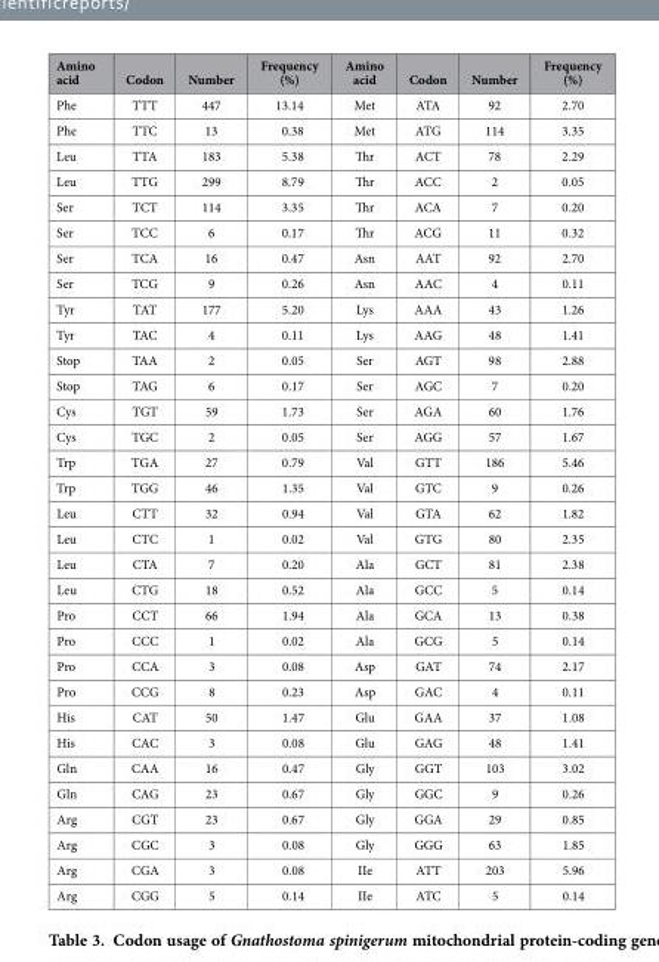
<table><thead><tr><td>Amino acid</td><td>Codon</td><td>Number</td><td>Frequency (%)</td><td>Amino acid</td><td>Codon</td><td>Number</td><td>Frequency (%)</td></tr></thead><tbody><tr><td>Phe</td><td>TTT</td><td>447</td><td>13.14</td><td>Met</td><td>ATA</td><td>92</td><td>2.70</td></tr><tr><td>Phe</td><td>TTC</td><td>13</td><td>0.38</td><td>Met</td><td>ATG</td><td>114</td><td>3.35</td></tr><tr><td>Leu</td><td>TTA</td><td>183</td><td>5.38</td><td>Thr</td><td>ACT</td><td>78</td><td>2.29</td></tr><tr><td>Leu</td><td>TTG</td><td>299</td><td>8.79</td><td>Thr</td><td>ACC</td><td>2</td><td>0.05</td></tr><tr><td>Ser</td><td>TCT</td><td>114</td><td>3.35</td><td>Thr</td><td>ACA</td><td>7</td><td>0.20</td></tr><tr><td>Ser</td><td>TCC</td><td>6</td><td>0.17</td><td>Thr</td><td>ACG</td><td>11</td><td>0.32</td></tr><tr><td>Ser</td><td>TCA</td><td>16</td><td>0.47</td><td>Asn</td><td>AAT</td><td>92</td><td>2.70</td></tr><tr><td>Ser</td><td>TCG</td><td>9</td><td>0.26</td><td>Asn</td><td>AAC</td><td>4</td><td>0.11</td></tr><tr><td>Tyr</td><td>TAT</td><td>177</td><td>5.20</td><td>Lys</td><td>AAA</td><td>43</td><td>1.26</td></tr><tr><td>Tyr</td><td>TAC</td><td>4</td><td>0.11</td><td>Lys</td><td>AAG</td><td>48</td><td>1.41</td></tr><tr><td>Stop</td><td>TAA</td><td>2</td><td>0.05</td><td>Ser</td><td>AGT</td><td>98</td><td>2.88</td></tr><tr><td>Stop</td><td>TAG</td><td>6</td><td>0.17</td><td>Ser</td><td>AGC</td><td>7</td><td>0.20</td></tr><tr><td>Cys</td><td>TGT</td><td>59</td><td>1.73</td><td>Ser</td><td>AGA</td><td>60</td><td>1.76</td></tr><tr><td>Cys</td><td>TGC</td><td>2</td><td>0.05</td><td>Ser</td><td>AGG</td><td>57</td><td>1.67</td></tr><tr><td>Trp</td><td>TGA</td><td>27</td><td>0.79</td><td>Val</td><td>GTT</td><td>186</td><td>5.46</td></tr><tr><td>Trp</td><td>TGG</td><td>46</td><td>1.35</td><td>Val</td><td>GTC</td><td>9</td><td>0.26</td></tr><tr><td>Leu</td><td>CTT</td><td>32</td><td>0.94</td><td>Val</td><td>GTA</td><td>62</td><td>1.82</td></tr><tr><td>Leu</td><td>CTC</td><td>1</td><td>0.02</td><td>Val</td><td>GTG</td><td>80</td><td>2.35</td></tr><tr><td>Leu</td><td>CTA</td><td>7</td><td>0.20</td><td>Ala</td><td>GCT</td><td>81</td><td>2.38</td></tr><tr><td>Leu</td><td>CTG</td><td>18</td><td>0.52</td><td>Ala</td><td>GCC</td><td>5</td><td>0.14</td></tr><tr><td>Pro</td><td>CCT</td><td>66</td><td>1.94</td><td>Ala</td><td>GCA</td><td>13</td><td>0.38</td></tr><tr><td>Pro</td><td>CCC</td><td>1</td><td>0.02</td><td>Ala</td><td>GCG</td><td>5</td><td>0.14</td></tr><tr><td>Pro</td><td>CCA</td><td>3</td><td>0.08</td><td>Asp</td><td>GAT</td><td>74</td><td>2.17</td></tr><tr><td>Pro</td><td>CCG</td><td>8</td><td>0.23</td><td>Asp</td><td>GAC</td><td>4</td><td>0.11</td></tr><tr><td>His</td><td>CAT</td><td>50</td><td>1.47</td><td>Glu</td><td>GAA</td><td>37</td><td>1.08</td></tr><tr><td>His</td><td>CAC</td><td>3</td><td>0.08</td><td>Glu</td><td>GAG</td><td>48</td><td>1.41</td></tr><tr><td>Gln</td><td>CAA</td><td>16</td><td>0.47</td><td>Gly</td><td>GGT</td><td>103</td><td>3.02</td></tr><tr><td>Gln</td><td>CAG</td><td>23</td><td>0.67</td><td>Gly</td><td>GGC</td><td>9</td><td>0.26</td></tr><tr><td>Arg</td><td>CGT</td><td>23</td><td>0.67</td><td>Gly</td><td>GGA</td><td>29</td><td>0.85</td></tr><tr><td>Arg</td><td>CGC</td><td>3</td><td>0.08</td><td>Gly</td><td>GGG</td><td>63</td><td>1.85</td></tr><tr><td>Arg</td><td>CGA</td><td>3</td><td>0.08</td><td>IIe</td><td>ATT</td><td>203</td><td>5.96</td></tr><tr><td>Arg</td><td>CGG</td><td>5</td><td>0.14</td><td>IIe</td><td>ATC</td><td>5</td><td>0.14</td></tr></tbody></table>